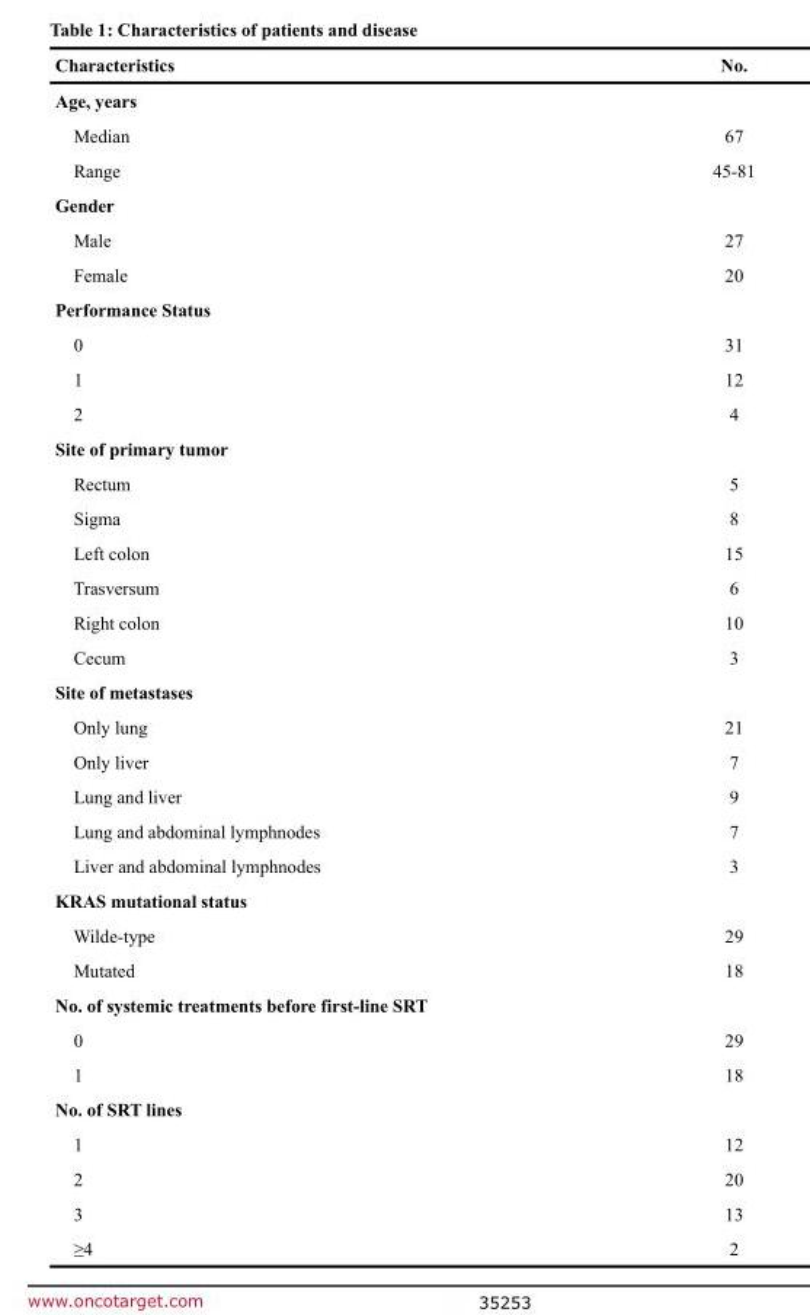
<table><thead><tr><td>Characteristics</td><td>No.</td></tr></thead><tbody><tr><td colspan="2">Age, years</td></tr><tr><td>Median</td><td>67</td></tr><tr><td>Range</td><td>45-81</td></tr><tr><td colspan="2">Gender</td></tr><tr><td>Male</td><td>27</td></tr><tr><td>Female</td><td>20</td></tr><tr><td colspan="2">Performance Status</td></tr><tr><td>0</td><td>31</td></tr><tr><td>1</td><td>12</td></tr><tr><td>2</td><td>4</td></tr><tr><td colspan="2">Site of primary tumor</td></tr><tr><td>Rectum</td><td>5</td></tr><tr><td>Sigma</td><td>8</td></tr><tr><td>Left colon</td><td>15</td></tr><tr><td>Trasversum</td><td>6</td></tr><tr><td>Right colon</td><td>10</td></tr><tr><td>Cecum</td><td>3</td></tr><tr><td colspan="2">Site of metastases</td></tr><tr><td>Only lung</td><td>21</td></tr><tr><td>Only liver</td><td>7</td></tr><tr><td>Lung and liver</td><td>9</td></tr><tr><td>Lung and abdominal lymphnodes</td><td>7</td></tr><tr><td>Liver and abdominal lymphnodes</td><td>3</td></tr><tr><td colspan="2">KRAS mutational status</td></tr><tr><td>Wilde-type</td><td>29</td></tr><tr><td>Mutated</td><td>18</td></tr><tr><td colspan="2">No. of systemic treatments before first-line SRT</td></tr><tr><td>0</td><td>29</td></tr><tr><td>1</td><td>18</td></tr><tr><td colspan="2">No. of SRT lines</td></tr><tr><td>1</td><td>12</td></tr><tr><td>2</td><td>20</td></tr><tr><td>3</td><td>13</td></tr><tr><td>≥4</td><td>2</td></tr></tbody></table>